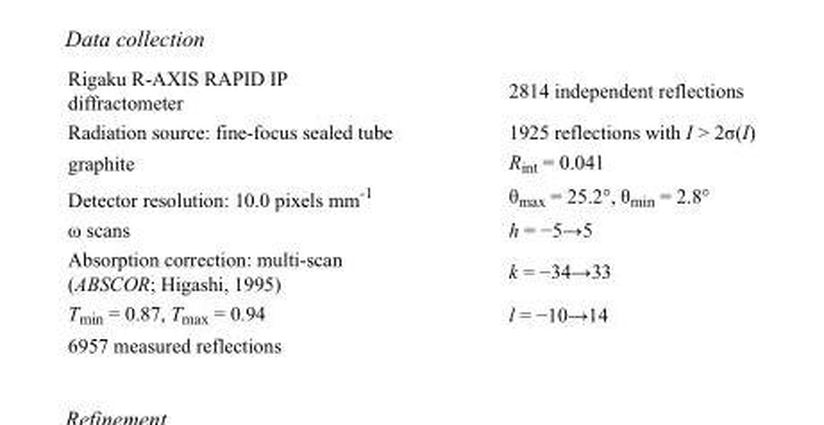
<table><tbody><tr><td>Rigaku R-AXIS RAPID IP diffractometer</td><td>2814 independent reflections</td></tr><tr><td>Radiation source: fine-focus sealed tube</td><td>1925 reflections with I &gt; 2σ(I)</td></tr><tr><td>graphite</td><td>R<sub>int</sub> = 0.041</td></tr><tr><td>Detector resolution: 10.0 pixels mm<sup>-1</sup></td><td>θ<sub>max</sub> = 25.2°, θ<sub>min</sub> = 2.8°</td></tr><tr><td>ω scans</td><td>h = −5→5</td></tr><tr><td>Absorption correction: multi-scan (ABSCOR; Higashi, 1995)</td><td>k = −34→33</td></tr><tr><td>T<sub>min</sub> = 0.87, T<sub>max</sub> = 0.94</td><td>l = −10→14</td></tr><tr><td>6957 measured reflections</td><td></td></tr></tbody></table>